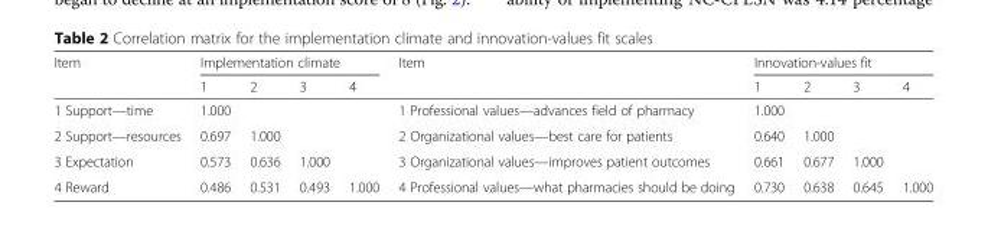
<table><thead><tr><td rowspan="2">Item</td><td colspan="4">Implementation climate</td><td rowspan="2">Item</td><td colspan="4">Innovation-values fit</td></tr><tr><td>1</td><td>2</td><td>3</td><td>4</td><td>1</td><td>2</td><td>3</td><td>4</td></tr></thead><tbody><tr><td>1 Support—time</td><td>1.000</td><td></td><td></td><td></td><td>1 Professional values—advances field of pharmacy</td><td>1.000</td><td></td><td></td><td></td></tr><tr><td>2 Support—resources</td><td>0.697</td><td>1.000</td><td></td><td></td><td>2 Organizational values—best care for patients</td><td>0.640</td><td>1.000</td><td></td><td></td></tr><tr><td>3 Expectation</td><td>0.573</td><td>0.636</td><td>1.000</td><td></td><td>3 Organizational values—improves patient outcomes</td><td>0.661</td><td>0.677</td><td>1.000</td><td></td></tr><tr><td>4 Reward</td><td>0.486</td><td>0.531</td><td>0.493</td><td>1.000</td><td>4 Professional values—what pharmacies should be doing</td><td>0.730</td><td>0.638</td><td>0.645</td><td>1.000</td></tr></tbody></table>